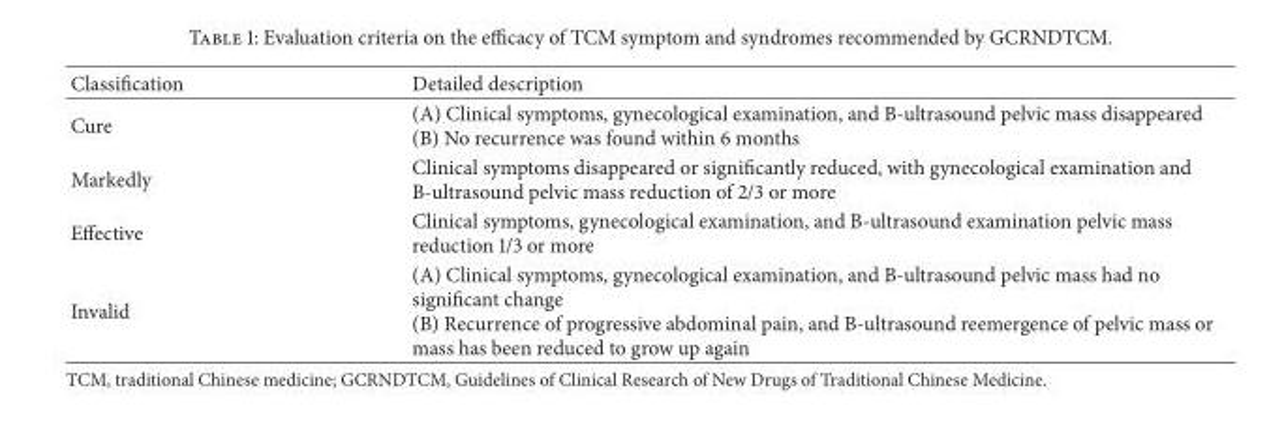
<table><thead><tr><td>Classification</td><td>Detailed description</td></tr></thead><tbody><tr><td>Cure</td><td>(A) Clinical symptoms, gynecological examination, and B-ultrasound pelvic mass disappeared (B) No recurrence was found within 6 months</td></tr><tr><td>Markedly</td><td>Clinical symptoms disappeared or significantly reduced, with gynecological examination and B-ultrasound pelvic mass reduction of 2/3 or more</td></tr><tr><td>Effective</td><td>Clinical symptoms, gynecological examination, and B-ultrasound examination pelvic mass reduction 1/3 or more</td></tr><tr><td>Invalid</td><td>(A) Clinical symptoms, gynecological examination, and B-ultrasound pelvic mass had no significant change (B) Recurrence of progressive abdominal pain, and B-ultrasound reemergence of pelvic mass or mass has been reduced to grow up again</td></tr></tbody></table>